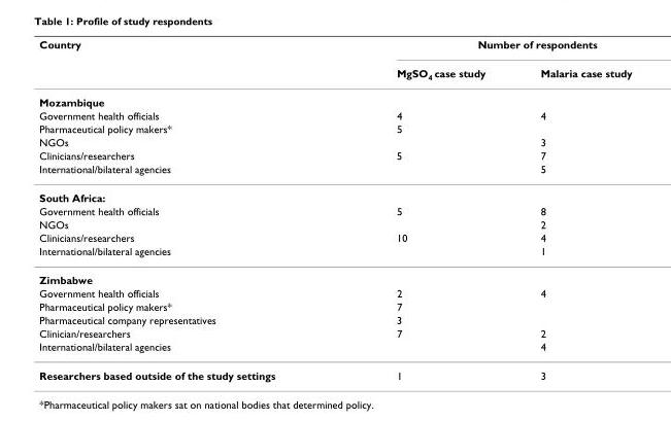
<table><thead><tr><td rowspan="2">Country</td><td colspan="2">Number of respondents</td></tr><tr><td>MgSO<sub>4</sub> case study</td><td>Malaria case study</td></tr></thead><tbody><tr><td colspan="3">Mozambique</td></tr><tr><td>Government health officials</td><td>4</td><td>4</td></tr><tr><td>Pharmaceutical policy makers*</td><td>5</td><td></td></tr><tr><td>NGOs</td><td></td><td>3</td></tr><tr><td>Clinicians/researchers</td><td>5</td><td>7</td></tr><tr><td>International/bilateral agencies</td><td></td><td>5</td></tr><tr><td colspan="3">South Africa:</td></tr><tr><td>Government health officials</td><td>5</td><td>8</td></tr><tr><td>NGOs</td><td></td><td>2</td></tr><tr><td>Clinicians/researchers</td><td>10</td><td>4</td></tr><tr><td>International/bilateral agencies</td><td></td><td>1</td></tr><tr><td colspan="3">Zimbabwe</td></tr><tr><td>Government health officials</td><td>2</td><td>4</td></tr><tr><td>Pharmaceutical policy makers*</td><td>7</td><td></td></tr><tr><td>Pharmaceutical company representatives</td><td>3</td><td></td></tr><tr><td>Clinician/researchers</td><td>7</td><td>2</td></tr><tr><td>International/bilateral agencies</td><td></td><td>4</td></tr><tr><td>Researchers based outside of the study settings</td><td>1</td><td>3</td></tr></tbody></table>